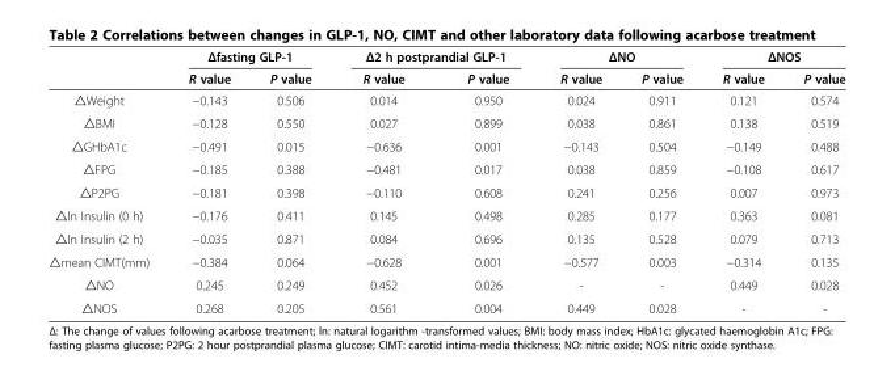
<table><thead><tr><td rowspan="2"></td><td colspan="2">Δfasting GLP-1</td><td colspan="2">Δ2 h postprandial GLP-1</td><td colspan="2">ΔNO</td><td colspan="2">ΔNOS</td></tr><tr><td>R value</td><td>P value</td><td>R value</td><td>P value</td><td>R value</td><td>P value</td><td>R value</td><td>P value</td></tr></thead><tbody><tr><td>△Weight</td><td>−0.143</td><td>0.506</td><td>0.014</td><td>0.950</td><td>0.024</td><td>0.911</td><td>0.121</td><td>0.574</td></tr><tr><td>△BMI</td><td>−0.128</td><td>0.550</td><td>0.027</td><td>0.899</td><td>0.038</td><td>0.861</td><td>0.138</td><td>0.519</td></tr><tr><td>△GHbA1c</td><td>−0.491</td><td>0.015</td><td>−0.636</td><td>0.001</td><td>−0.143</td><td>0.504</td><td>−0.149</td><td>0.488</td></tr><tr><td>△FPG</td><td>−0.185</td><td>0.388</td><td>−0.481</td><td>0.017</td><td>0.038</td><td>0.859</td><td>−0.108</td><td>0.617</td></tr><tr><td>△P2PG</td><td>−0.181</td><td>0.398</td><td>−0.110</td><td>0.608</td><td>0.241</td><td>0.256</td><td>0.007</td><td>0.973</td></tr><tr><td>△ln Insulin (0 h)</td><td>−0.176</td><td>0.411</td><td>0.145</td><td>0.498</td><td>0.285</td><td>0.177</td><td>0.363</td><td>0.081</td></tr><tr><td>△ln Insulin (2 h)</td><td>−0.035</td><td>0.871</td><td>0.084</td><td>0.696</td><td>0.135</td><td>0.528</td><td>0.079</td><td>0.713</td></tr><tr><td>△mean CIMT(mm)</td><td>−0.384</td><td>0.064</td><td>−0.628</td><td>0.001</td><td>−0.577</td><td>0.003</td><td>−0.314</td><td>0.135</td></tr><tr><td>△NO</td><td>0.245</td><td>0.249</td><td>0.452</td><td>0.026</td><td>-</td><td>-</td><td>0.449</td><td>0.028</td></tr><tr><td>△NOS</td><td>0.268</td><td>0.205</td><td>0.561</td><td>0.004</td><td>0.449</td><td>0.028</td><td>-</td><td>-</td></tr></tbody></table>